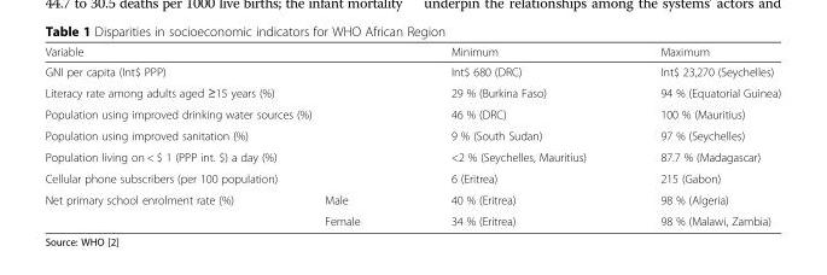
<table><thead><tr><td colspan="2">Variable</td><td>Minimum</td><td>Maximum</td></tr></thead><tbody><tr><td colspan="2">GNI per capita (Int$ PPP)</td><td>Int$ 680 (DRC)</td><td>Int$ 23,270 (Seychelles)</td></tr><tr><td colspan="2">Literacy rate among adults aged ≥15 years (%)</td><td>29 % (Burkina Faso)</td><td>94 % (Equatorial Guinea)</td></tr><tr><td colspan="2">Population using improved drinking water sources (%)</td><td>46 % (DRC)</td><td>100 % (Mauritius)</td></tr><tr><td colspan="2">Population using improved sanitation (%)</td><td>9 % (South Sudan)</td><td>97 % (Seychelles)</td></tr><tr><td colspan="2">Population living on &lt; $ 1 (PPP int. $) a day (%)</td><td>&lt;2 % (Seychelles, Mauritius)</td><td>87.7 % (Madagascar)</td></tr><tr><td colspan="2">Cellular phone subscribers (per 100 population)</td><td>6 (Eritrea)</td><td>215 (Gabon)</td></tr><tr><td rowspan="2">Net primary school enrolment rate (%)</td><td>Male</td><td>40 % (Eritrea)</td><td>98 % (Algeria)</td></tr><tr><td>Female</td><td>34 % (Eritrea)</td><td>98 % (Malawi, Zambia)</td></tr></tbody></table>